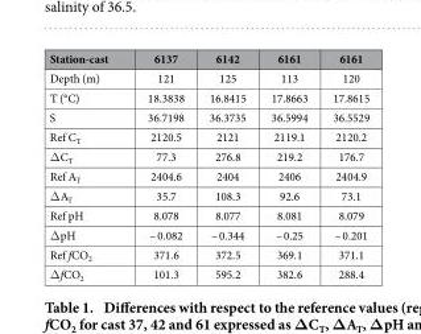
<table><thead><tr><td>Station-cast</td><td>6137</td><td>6142</td><td>6161</td><td>6161</td></tr></thead><tbody><tr><td>Depth (m)</td><td>121</td><td>125</td><td>113</td><td>120</td></tr><tr><td>T (°C)</td><td>18.3838</td><td>16.8415</td><td>17.8663</td><td>17.8615</td></tr><tr><td>S</td><td>36.7198</td><td>36.3735</td><td>36.5994</td><td>36.5529</td></tr><tr><td>Ref C<sub>T</sub></td><td>2120.5</td><td>2121</td><td>2119.1</td><td>2120.2</td></tr><tr><td>Δ C<sub>T</sub></td><td>77.3</td><td>276.8</td><td>219.2</td><td>176.7</td></tr><tr><td>Ref A<sub>T</sub></td><td>2404.6</td><td>2404</td><td>2406</td><td>2404.9</td></tr><tr><td>Δ A<sub>T</sub></td><td>35.7</td><td>108.3</td><td>92.6</td><td>73.1</td></tr><tr><td>Ref pH</td><td>8.078</td><td>8.077</td><td>8.081</td><td>8.079</td></tr><tr><td>Δ pH</td><td>– 0.082</td><td>– 0.344</td><td>– 0.25</td><td>– 0.201</td></tr><tr><td>Ref fCO<sub>2</sub></td><td>371.6</td><td>372.5</td><td>369.1</td><td>371.1</td></tr><tr><td>Δ fCO<sub>2</sub></td><td>101.3</td><td>595.2</td><td>382.6</td><td>288.4</td></tr></tbody></table>